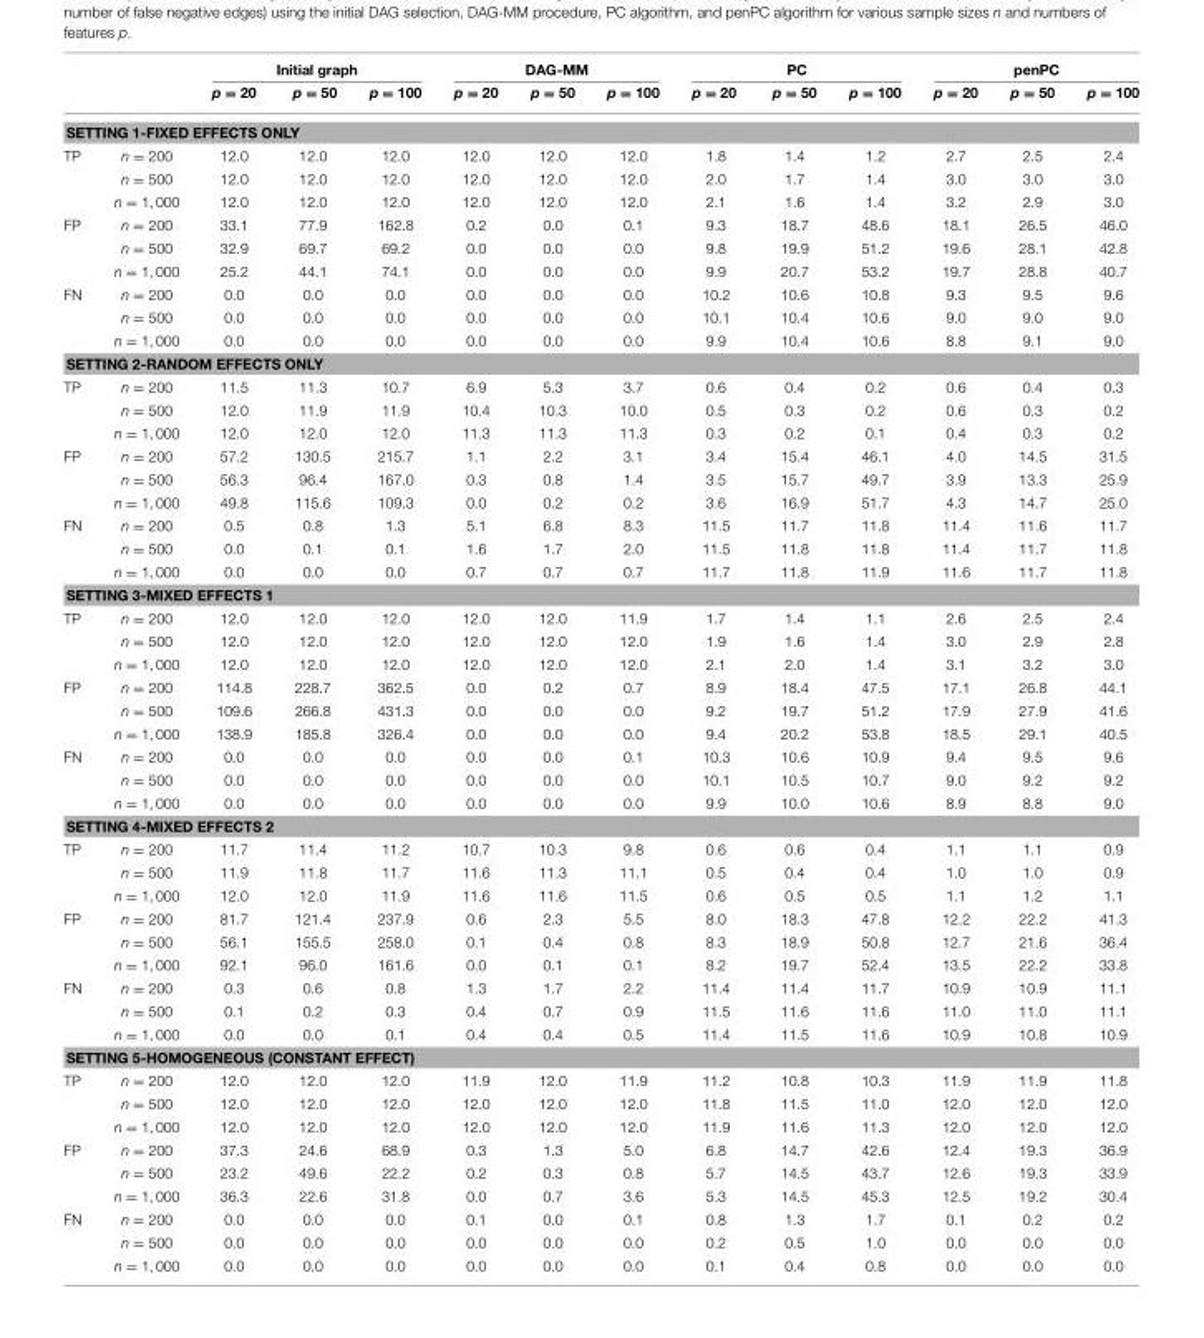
<table><thead><tr><td rowspan="2"></td><td rowspan="2"></td><td colspan="3">Initial graph</td><td colspan="3">DAG-MM</td><td colspan="3">PC</td><td colspan="3">penPC</td></tr><tr><td>p = 20</td><td>p = 50</td><td>p = 100</td><td>p = 20</td><td>p = 50</td><td>p = 100</td><td>p = 20</td><td>p = 50</td><td>p = 100</td><td>p = 20</td><td>p = 50</td><td>p = 100</td></tr></thead><tbody><tr><td colspan="14">SETTING 1-FIXED EFFECTS ONLY</td></tr><tr><td rowspan="3">TP</td><td>n = 200</td><td>12.0</td><td>12.0</td><td>12.0</td><td>12.0</td><td>12.0</td><td>12.0</td><td>1.8</td><td>1.4</td><td>1.2</td><td>2.7</td><td>2.5</td><td>2.4</td></tr><tr><td>n = 500</td><td>12.0</td><td>12.0</td><td>12.0</td><td>12.0</td><td>12.0</td><td>12.0</td><td>2.0</td><td>1.7</td><td>1.4</td><td>3.0</td><td>3.0</td><td>3.0</td></tr><tr><td>n = 1, 000</td><td>12.0</td><td>12.0</td><td>12.0</td><td>12.0</td><td>12.0</td><td>12.0</td><td>2.1</td><td>1.6</td><td>1.4</td><td>3.2</td><td>2.9</td><td>3.0</td></tr><tr><td rowspan="3">FP</td><td>n = 200</td><td>33.1</td><td>77.9</td><td>162.8</td><td>0.2</td><td>0.0</td><td>0.1</td><td>9.3</td><td>18.7</td><td>48.6</td><td>18.1</td><td>26.5</td><td>46.0</td></tr><tr><td>n = 500</td><td>32.9</td><td>69.7</td><td>69.2</td><td>0.0</td><td>0.0</td><td>0.0</td><td>9.8</td><td>19.9</td><td>51.2</td><td>19.6</td><td>28.1</td><td>42.8</td></tr><tr><td>n = 1, 000</td><td>25.2</td><td>44.1</td><td>74.1</td><td>0.0</td><td>0.0</td><td>0.0</td><td>9.9</td><td>20.7</td><td>53.2</td><td>19.7</td><td>28.8</td><td>40.7</td></tr><tr><td rowspan="3">FN</td><td>n = 200</td><td>0.0</td><td>0.0</td><td>0.0</td><td>0.0</td><td>0.0</td><td>0.0</td><td>10.2</td><td>10.6</td><td>10.8</td><td>9.3</td><td>9.5</td><td>9.6</td></tr><tr><td>n = 500</td><td>0.0</td><td>0.0</td><td>0.0</td><td>0.0</td><td>0.0</td><td>0.0</td><td>10.1</td><td>10.4</td><td>10.6</td><td>9.0</td><td>9.0</td><td>9.0</td></tr><tr><td>n = 1, 000</td><td>0.0</td><td>0.0</td><td>0.0</td><td>0.0</td><td>0.0</td><td>0.0</td><td>9.9</td><td>10.4</td><td>10.6</td><td>8.8</td><td>9.1</td><td>9.0</td></tr><tr><td colspan="14">SETTING 2-RANDOM EFFECTS ONLY</td></tr><tr><td rowspan="3">TP</td><td>n = 200</td><td>11.5</td><td>11.3</td><td>10.7</td><td>6.9</td><td>5.3</td><td>3.7</td><td>0.6</td><td>0.4</td><td>0.2</td><td>0.6</td><td>0.4</td><td>0.3</td></tr><tr><td>n = 500</td><td>12.0</td><td>11.9</td><td>11.9</td><td>10.4</td><td>10.3</td><td>10.0</td><td>0.5</td><td>0.3</td><td>0.2</td><td>0.6</td><td>0.3</td><td>0.2</td></tr><tr><td>n = 1, 000</td><td>12.0</td><td>12.0</td><td>12.0</td><td>11.3</td><td>11.3</td><td>11.3</td><td>0.3</td><td>0.2</td><td>0.1</td><td>0.4</td><td>0.3</td><td>0.2</td></tr><tr><td rowspan="3">FP</td><td>n = 200</td><td>57.2</td><td>130.5</td><td>215.7</td><td>1.1</td><td>2.2</td><td>3.1</td><td>3.4</td><td>15.4</td><td>46.1</td><td>4.0</td><td>14.5</td><td>31.5</td></tr><tr><td>n = 500</td><td>56.3</td><td>96.4</td><td>167.0</td><td>0.3</td><td>0.8</td><td>1.4</td><td>3.5</td><td>15.7</td><td>49.7</td><td>3.9</td><td>13.3</td><td>25.9</td></tr><tr><td>n = 1, 000</td><td>49.8</td><td>115.6</td><td>109.3</td><td>0.0</td><td>0.2</td><td>0.2</td><td>3.6</td><td>16.9</td><td>51.7</td><td>4.3</td><td>14.7</td><td>25.0</td></tr><tr><td rowspan="3">FN</td><td>n = 200</td><td>0.5</td><td>0.8</td><td>1.3</td><td>5.1</td><td>6.8</td><td>8.3</td><td>11.5</td><td>11.7</td><td>11.8</td><td>11.4</td><td>11.6</td><td>11.7</td></tr><tr><td>n = 500</td><td>0.0</td><td>0.1</td><td>0.1</td><td>1.6</td><td>1.7</td><td>2.0</td><td>11.5</td><td>11.8</td><td>11.8</td><td>11.4</td><td>11.7</td><td>11.8</td></tr><tr><td>n = 1, 000</td><td>0.0</td><td>0.0</td><td>0.0</td><td>0.7</td><td>0.7</td><td>0.7</td><td>11.7</td><td>11.8</td><td>11.9</td><td>11.6</td><td>11.7</td><td>11.8</td></tr><tr><td colspan="14">SETTING 3-MIXED EFFECTS 1</td></tr><tr><td rowspan="3">TP</td><td>n = 200</td><td>12.0</td><td>12.0</td><td>12.0</td><td>12.0</td><td>12.0</td><td>11.9</td><td>1.7</td><td>1.4</td><td>1.1</td><td>2.6</td><td>2.5</td><td>2.4</td></tr><tr><td>n = 500</td><td>12.0</td><td>12.0</td><td>12.0</td><td>12.0</td><td>12.0</td><td>12.0</td><td>1.9</td><td>1.6</td><td>1.4</td><td>3.0</td><td>2.9</td><td>2.8</td></tr><tr><td>n = 1, 000</td><td>12.0</td><td>12.0</td><td>12.0</td><td>12.0</td><td>12.0</td><td>12.0</td><td>2.1</td><td>2.0</td><td>1.4</td><td>3.1</td><td>3.2</td><td>3.0</td></tr><tr><td rowspan="3">FP</td><td>n = 200</td><td>114.8</td><td>228.7</td><td>362.5</td><td>0.0</td><td>0.2</td><td>0.7</td><td>8.9</td><td>18.4</td><td>47.5</td><td>17.1</td><td>26.8</td><td>44.1</td></tr><tr><td>n = 500</td><td>109.6</td><td>266.8</td><td>431.3</td><td>0.0</td><td>0.0</td><td>0.0</td><td>9.2</td><td>19.7</td><td>51.2</td><td>17.9</td><td>27.9</td><td>41.6</td></tr><tr><td>n = 1, 000</td><td>138.9</td><td>185.8</td><td>326.4</td><td>0.0</td><td>0.0</td><td>0.0</td><td>9.4</td><td>20.2</td><td>53.8</td><td>18.5</td><td>29.1</td><td>40.5</td></tr><tr><td rowspan="3">FN</td><td>n = 200</td><td>0.0</td><td>0.0</td><td>0.0</td><td>0.0</td><td>0.0</td><td>0.1</td><td>10.3</td><td>10.6</td><td>10.9</td><td>9.4</td><td>9.5</td><td>9.6</td></tr><tr><td>n = 500</td><td>0.0</td><td>0.0</td><td>0.0</td><td>0.0</td><td>0.0</td><td>0.0</td><td>10.1</td><td>10.5</td><td>10.7</td><td>9.0</td><td>9.2</td><td>9.2</td></tr><tr><td>n = 1, 000</td><td>0.0</td><td>0.0</td><td>0.0</td><td>0.0</td><td>0.0</td><td>0.0</td><td>9.9</td><td>10.0</td><td>10.6</td><td>8.9</td><td>8.8</td><td>9.0</td></tr><tr><td colspan="14">SETTING 4-MIXED EFFECTS 2</td></tr><tr><td rowspan="3">TP</td><td>n = 200</td><td>11.7</td><td>11.4</td><td>11.2</td><td>10.7</td><td>10.3</td><td>9.8</td><td>0.6</td><td>0.6</td><td>0.4</td><td>1.1</td><td>1.1</td><td>0.9</td></tr><tr><td>n = 500</td><td>11.9</td><td>11.8</td><td>11.7</td><td>11.6</td><td>11.3</td><td>11.1</td><td>0.5</td><td>0.4</td><td>0.4</td><td>1.0</td><td>1.0</td><td>0.9</td></tr><tr><td>n = 1, 000</td><td>12.0</td><td>12.0</td><td>11.9</td><td>11.6</td><td>11.6</td><td>11.5</td><td>0.6</td><td>0.5</td><td>0.5</td><td>1.1</td><td>1.2</td><td>1.1</td></tr><tr><td rowspan="3">FP</td><td>n = 200</td><td>81.7</td><td>121.4</td><td>237.9</td><td>0.6</td><td>2.3</td><td>5.5</td><td>8.0</td><td>18.3</td><td>47.8</td><td>12.2</td><td>22.2</td><td>41.3</td></tr><tr><td>n = 500</td><td>56.1</td><td>155.5</td><td>258.0</td><td>0.1</td><td>0.4</td><td>0.8</td><td>8.3</td><td>18.9</td><td>50.8</td><td>12.7</td><td>21.6</td><td>36.4</td></tr><tr><td>n = 1, 000</td><td>92.1</td><td>96.0</td><td>161.6</td><td>0.0</td><td>0.1</td><td>0.1</td><td>8.2</td><td>19.7</td><td>52.4</td><td>13.5</td><td>22.2</td><td>33.8</td></tr><tr><td rowspan="3">FN</td><td>n = 200</td><td>0.3</td><td>0.6</td><td>0.8</td><td>1.3</td><td>1.7</td><td>2.2</td><td>11.4</td><td>11.4</td><td>11.7</td><td>10.9</td><td>10.9</td><td>11.1</td></tr><tr><td>n = 500</td><td>0.1</td><td>0.2</td><td>0.3</td><td>0.4</td><td>0.7</td><td>0.9</td><td>11.5</td><td>11.6</td><td>11.6</td><td>11.0</td><td>11.0</td><td>11.1</td></tr><tr><td>n = 1, 000</td><td>0.0</td><td>0.0</td><td>0.1</td><td>0.4</td><td>0.4</td><td>0.5</td><td>11.4</td><td>11.5</td><td>11.6</td><td>10.9</td><td>10.8</td><td>10.9</td></tr><tr><td colspan="14">SETTING 5-HOMOGENEOUS (CONSTANT EFFECT)</td></tr><tr><td rowspan="3">TP</td><td>n = 200</td><td>12.0</td><td>12.0</td><td>12.0</td><td>11.9</td><td>12.0</td><td>11.9</td><td>11.2</td><td>10.8</td><td>10.3</td><td>11.9</td><td>11.9</td><td>11.8</td></tr><tr><td>n = 500</td><td>12.0</td><td>12.0</td><td>12.0</td><td>12.0</td><td>12.0</td><td>12.0</td><td>11.8</td><td>11.5</td><td>11.0</td><td>12.0</td><td>12.0</td><td>12.0</td></tr><tr><td>n = 1, 000</td><td>12.0</td><td>12.0</td><td>12.0</td><td>12.0</td><td>12.0</td><td>12.0</td><td>11.9</td><td>11.6</td><td>11.3</td><td>12.0</td><td>12.0</td><td>12.0</td></tr><tr><td rowspan="3">FP</td><td>n = 200</td><td>37.3</td><td>24.6</td><td>68.9</td><td>0.3</td><td>1.3</td><td>5.0</td><td>6.8</td><td>14.7</td><td>42.6</td><td>12.4</td><td>19.3</td><td>36.9</td></tr><tr><td>n = 500</td><td>23.2</td><td>49.6</td><td>22.2</td><td>0.2</td><td>0.3</td><td>0.8</td><td>5.7</td><td>14.5</td><td>43.7</td><td>12.6</td><td>19.3</td><td>33.9</td></tr><tr><td>n = 1, 000</td><td>36.3</td><td>22.6</td><td>31.8</td><td>0.0</td><td>0.7</td><td>3.6</td><td>5.3</td><td>14.5</td><td>45.3</td><td>12.5</td><td>19.2</td><td>30.4</td></tr><tr><td rowspan="3">FN</td><td>n = 200</td><td>0.0</td><td>0.0</td><td>0.0</td><td>0.1</td><td>0.0</td><td>0.1</td><td>0.8</td><td>1.3</td><td>1.7</td><td>0.1</td><td>0.2</td><td>0.2</td></tr><tr><td>n = 500</td><td>0.0</td><td>0.0</td><td>0.0</td><td>0.0</td><td>0.0</td><td>0.0</td><td>0.2</td><td>0.5</td><td>1.0</td><td>0.0</td><td>0.0</td><td>0.0</td></tr><tr><td>n = 1, 000</td><td>0.0</td><td>0.0</td><td>0.0</td><td>0.0</td><td>0.0</td><td>0.0</td><td>0.1</td><td>0.4</td><td>0.8</td><td>0.0</td><td>0.0</td><td>0.0</td></tr></tbody></table>